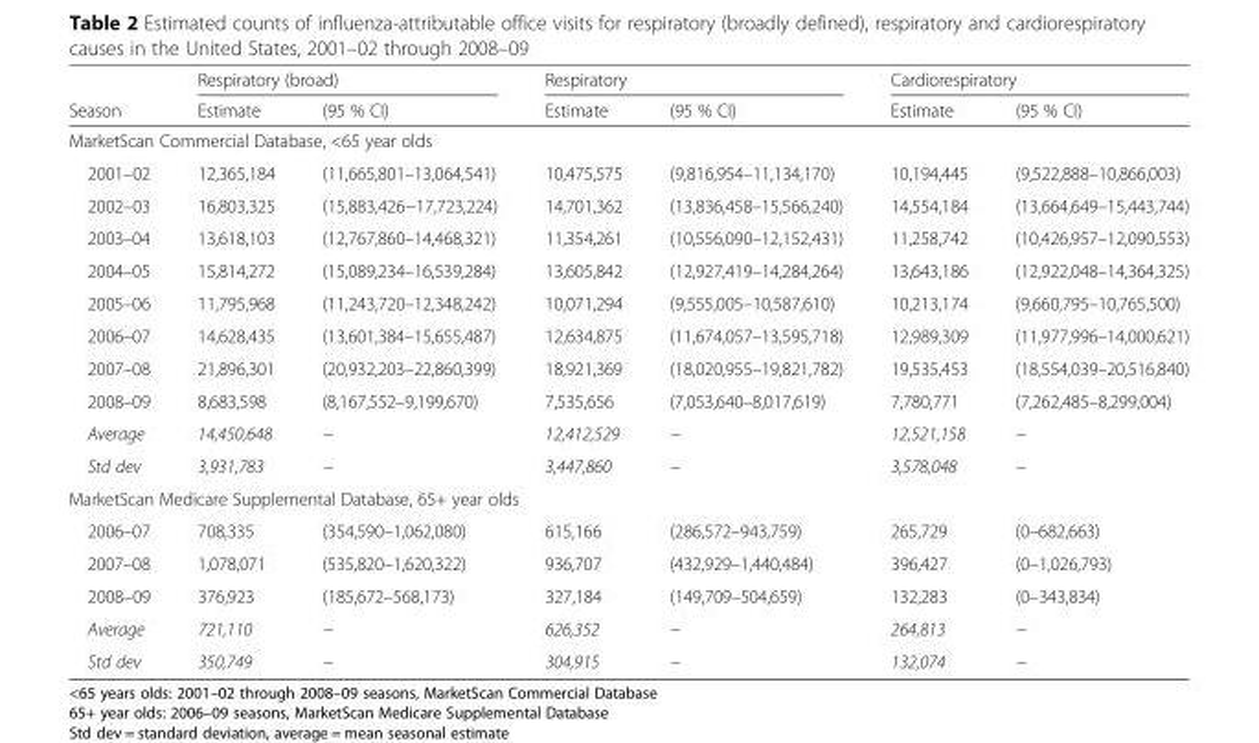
<table><thead><tr><td rowspan="2">Season</td><td colspan="2">Respiratory (broad)</td><td colspan="2">Respiratory</td><td colspan="2">Cardiorespiratory</td></tr><tr><td>Estimate</td><td>(95 % CI)</td><td>Estimate</td><td>(95 % CI)</td><td>Estimate</td><td>(95 % CI)</td></tr></thead><tbody><tr><td colspan="7">MarketScan Commercial Database, &lt;65 year olds</td></tr><tr><td>2001–02</td><td>12,365,184</td><td>(11,665,801–13,064,541)</td><td>10,475,575</td><td>(9,816,954–11,134,170)</td><td>10,194,445</td><td>(9,522,888–10,866,003)</td></tr><tr><td>2002–03</td><td>16,803,325</td><td>(15,883,426−17,723,224)</td><td>14,701,362</td><td>(13,836,458–15,566,240)</td><td>14,554,184</td><td>(13,664,649–15,443,744)</td></tr><tr><td>2003–04</td><td>13,618,103</td><td>(12,767,860–14,468,321)</td><td>11,354,261</td><td>(10,556,090–12,152,431)</td><td>11,258,742</td><td>(10,426,957–12,090,553)</td></tr><tr><td>2004–05</td><td>15,814,272</td><td>(15,089,234–16,539,284)</td><td>13,605,842</td><td>(12,927,419–14,284,264)</td><td>13,643,186</td><td>(12,922,048–14,364,325)</td></tr><tr><td>2005–06</td><td>11,795,968</td><td>(11,243,720–12,348,242)</td><td>10,071,294</td><td>(9,555,005–10,587,610)</td><td>10,213,174</td><td>(9,660,795–10,765,500)</td></tr><tr><td>2006–07</td><td>14,628,435</td><td>(13,601,384–15,655,487)</td><td>12,634,875</td><td>(11,674,057–13,595,718)</td><td>12,989,309</td><td>(11,977,996–14,000,621)</td></tr><tr><td>2007–08</td><td>21,896,301</td><td>(20,932,203–22,860,399)</td><td>18,921,369</td><td>(18,020,955–19,821,782)</td><td>19,535,453</td><td>(18,554,039–20,516,840)</td></tr><tr><td>2008–09</td><td>8,683,598</td><td>(8,167,552–9,199,670)</td><td>7,535,656</td><td>(7,053,640–8,017,619)</td><td>7,780,771</td><td>(7,262,485–8,299,004)</td></tr><tr><td>Average</td><td>14,450,648</td><td>−</td><td>12,412,529</td><td>−</td><td>12,521,158</td><td>−</td></tr><tr><td>Std dev</td><td>3,931,783</td><td>−</td><td>3,447,860</td><td>−</td><td>3,578,048</td><td>−</td></tr><tr><td colspan="7">MarketScan Medicare Supplemental Database, 65+ year olds</td></tr><tr><td>2006–07</td><td>708,335</td><td>(354,590–1,062,080)</td><td>615,166</td><td>(286,572–943,759)</td><td>265,729</td><td>(0–682,663)</td></tr><tr><td>2007–08</td><td>1,078,071</td><td>(535,820–1,620,322)</td><td>936,707</td><td>(432,929–1,440,484)</td><td>396,427</td><td>(0–1,026,793)</td></tr><tr><td>2008–09</td><td>376,923</td><td>(185,672–568,173)</td><td>327,184</td><td>(149,709–504,659)</td><td>132,283</td><td>(0–343,834)</td></tr><tr><td>Average</td><td>721,110</td><td>−</td><td>626,352</td><td>−</td><td>264,813</td><td>−</td></tr><tr><td>Std dev</td><td>350,749</td><td>−</td><td>304,915</td><td>−</td><td>132,074</td><td>−</td></tr></tbody></table>